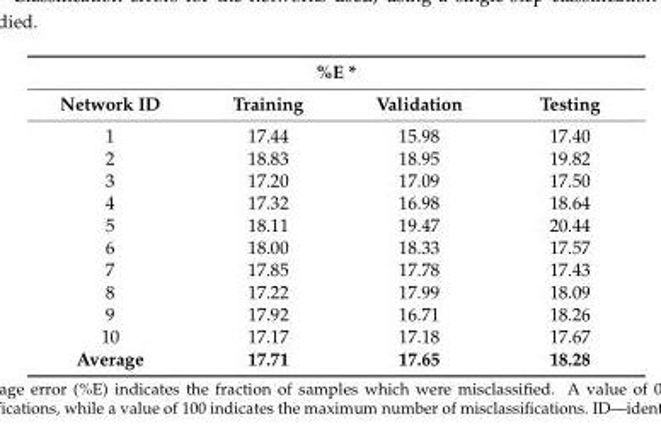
<table><thead><tr><td colspan="4">%E *</td></tr><tr><td>Network ID</td><td>Training</td><td>Validation</td><td>Testing</td></tr></thead><tbody><tr><td>1</td><td>17.44</td><td>15.98</td><td>17.40</td></tr><tr><td>2</td><td>18.83</td><td>18.95</td><td>19.82</td></tr><tr><td>3</td><td>17.20</td><td>17.09</td><td>17.50</td></tr><tr><td>4</td><td>17.32</td><td>16.98</td><td>18.64</td></tr><tr><td>5</td><td>18.11</td><td>19.47</td><td>20.44</td></tr><tr><td>6</td><td>18.00</td><td>18.33</td><td>17.57</td></tr><tr><td>7</td><td>17.85</td><td>17.78</td><td>17.43</td></tr><tr><td>8</td><td>17.22</td><td>17.99</td><td>18.09</td></tr><tr><td>9</td><td>17.92</td><td>16.71</td><td>18.26</td></tr><tr><td>10</td><td>17.17</td><td>17.18</td><td>17.67</td></tr><tr><td>Average</td><td>17.71</td><td>17.65</td><td>18.28</td></tr></tbody></table>